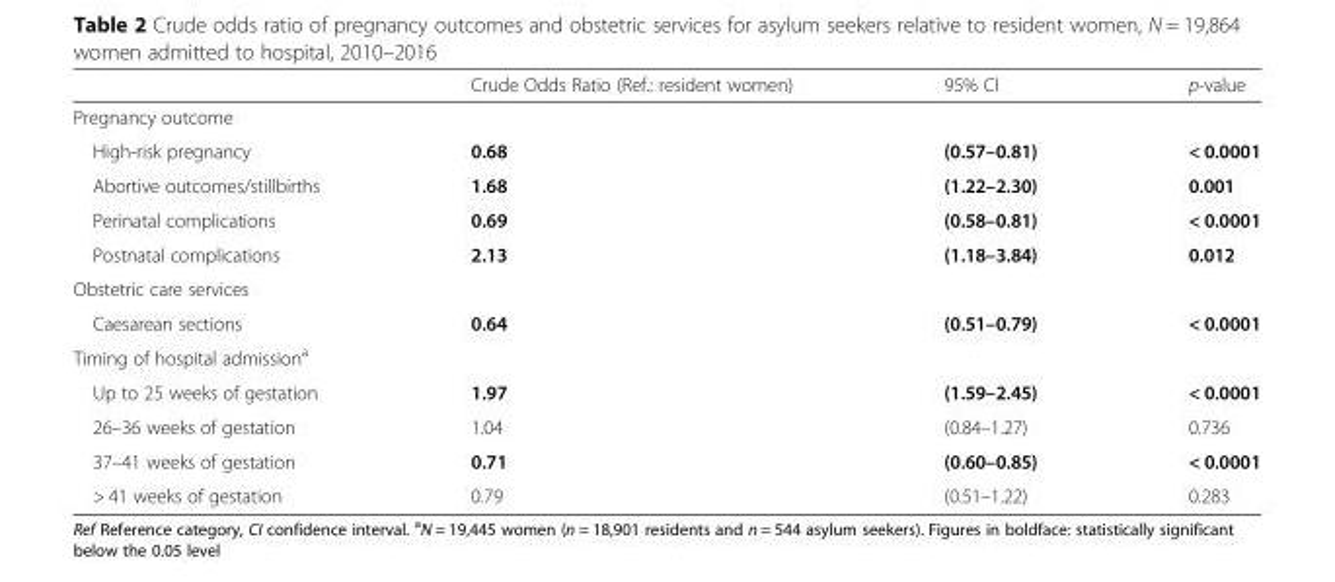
<table><thead><tr><td></td><td>Crude Odds Ratio (Ref.: resident women)</td><td>95% CI</td><td>p-value</td></tr></thead><tbody><tr><td colspan="4">Pregnancy outcome</td></tr><tr><td>High-risk pregnancy</td><td>0.68</td><td>(0.57–0.81)</td><td>&lt; 0.0001</td></tr><tr><td>Abortive outcomes/stillbirths</td><td>1.68</td><td>(1.22–2.30)</td><td>0.001</td></tr><tr><td>Perinatal complications</td><td>0.69</td><td>(0.58–0.81)</td><td>&lt; 0.0001</td></tr><tr><td>Postnatal complications</td><td>2.13</td><td>(1.18–3.84)</td><td>0.012</td></tr><tr><td colspan="4">Obstetric care services</td></tr><tr><td>Caesarean sections</td><td>0.64</td><td>(0.51–0.79)</td><td>&lt; 0.0001</td></tr><tr><td colspan="4">Timing of hospital admission<sup>a</sup></td></tr><tr><td>Up to 25 weeks of gestation</td><td>1.97</td><td>(1.59–2.45)</td><td>&lt; 0.0001</td></tr><tr><td>26–36 weeks of gestation</td><td>1.04</td><td>(0.84–1.27)</td><td>0.736</td></tr><tr><td>37–41 weeks of gestation</td><td>0.71</td><td>(0.60–0.85)</td><td>&lt; 0.0001</td></tr><tr><td>&gt; 41 weeks of gestation</td><td>0.79</td><td>(0.51–1.22)</td><td>0.283</td></tr></tbody></table>